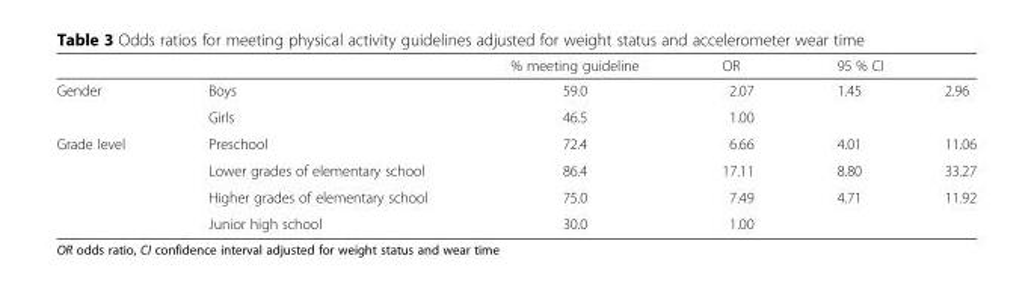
<table><thead><tr><td rowspan="2">Gender</td><td rowspan="2">Boys</td><td rowspan="2">% meeting guideline 59.0</td><td rowspan="2">OR 2.07</td><td colspan="2">95 % CI</td></tr><tr><td>1.45</td><td>2.96</td></tr></thead><tbody><tr><td></td><td>Girls</td><td>46.5</td><td>1.00</td><td></td><td></td></tr><tr><td rowspan="4">Grade level</td><td>Preschool</td><td>72.4</td><td>6.66</td><td>4.01</td><td>11.06</td></tr><tr><td>Lower grades of elementary school</td><td>86.4</td><td>17.11</td><td>8.80</td><td>33.27</td></tr><tr><td>Higher grades of elementary school</td><td>75.0</td><td>7.49</td><td>4.71</td><td>11.92</td></tr><tr><td>Junior high school</td><td>30.0</td><td>1.00</td><td></td><td></td></tr></tbody></table>